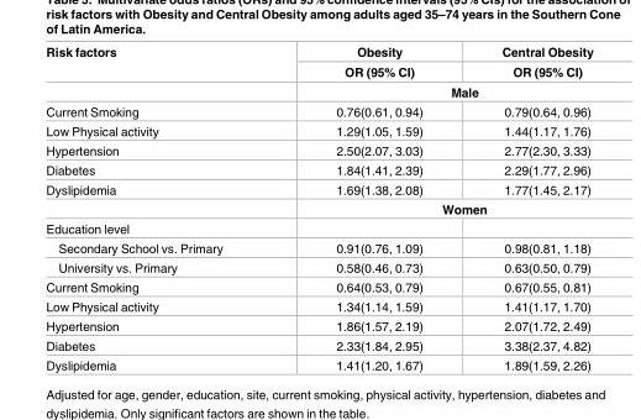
<table><thead><tr><td rowspan="2">Risk factors</td><td rowspan="2">Obesity OR (95% CI)</td><td rowspan="2">Central Obesity OR (95% CI)</td></tr><tr></tr></thead><tbody><tr><td></td><td colspan="2">Male</td></tr><tr><td>Current Smoking</td><td>0.76(0.61, 0.94)</td><td>0.79(0.64, 0.96)</td></tr><tr><td>Low Physical activity</td><td>1.29(1.05, 1.59)</td><td>1.44(1.17, 1.76)</td></tr><tr><td>Hypertension</td><td>2.50(2.07, 3.03)</td><td>2.77(2.30, 3.33)</td></tr><tr><td>Diabetes</td><td>1.84(1.41, 2.39)</td><td>2.29(1.77, 2.96)</td></tr><tr><td rowspan="2">Dyslipidemia</td><td>1.69(1.38, 2.08)</td><td>1.77(1.45, 2.17)</td></tr><tr><td colspan="2">Women</td></tr><tr><td colspan="3">Education level</td></tr><tr><td>Secondary School vs. Primary</td><td>0.91(0.76, 1.09)</td><td>0.98(0.81, 1.18)</td></tr><tr><td>University vs. Primary</td><td>0.58(0.46, 0.73)</td><td>0.63(0.50, 0.79)</td></tr><tr><td>Current Smoking</td><td>0.64(0.53, 0.79)</td><td>0.67(0.55, 0.81)</td></tr><tr><td>Low Physical activity</td><td>1.34(1.14, 1.59)</td><td>1.41(1.17, 1.70)</td></tr><tr><td>Hypertension</td><td>1.86(1.57, 2.19)</td><td>2.07(1.72, 2.49)</td></tr><tr><td>Diabetes</td><td>2.33(1.84, 2.95)</td><td>3.38(2.37, 4.82)</td></tr><tr><td>Dyslipidemia</td><td>1.41(1.20, 1.67)</td><td>1.89(1.59, 2.26)</td></tr></tbody></table>